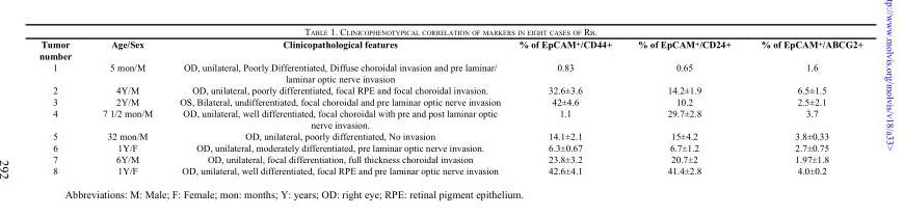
<table><thead><tr><td>Tumor number</td><td>Age/Sex</td><td>Clinicopathological features</td><td>% of EpCAM<sup>+</sup>/CD44+</td><td>% of EpCAM<sup>+</sup>/CD24+</td><td>% of EpCAM<sup>+</sup>/ABCG2+</td></tr></thead><tbody><tr><td>1</td><td>5 mon/M</td><td>OD, unilateral, Poorly Differentiated, Diffuse choroidal invasion and pre laminar/ laminar optic nerve invasion</td><td>0.83</td><td>0.65</td><td>1.6</td></tr><tr><td>2</td><td>4Y/M</td><td>OD, unilateral, poorly differentiated, focal RPE and focal choroidal invasion.</td><td>32.6±3.6</td><td>14.2±1.9</td><td>6.5±1.5</td></tr><tr><td>3</td><td>2Y/M</td><td>OS, Bilateral, undifferentiated, focal choroidal and pre laminar optic nerve invasion</td><td>42±4.6</td><td>10.2</td><td>2.5±2.1</td></tr><tr><td>4</td><td>7 1/2 mon/M</td><td>OD, unilateral, well differentiated, focal choroidal with pre and post laminar optic nerve invasion.</td><td>1.1</td><td>29.7±2.8</td><td>3.7</td></tr><tr><td>5</td><td>32 mon/M</td><td>OD, unilateral, poorly differentiated, No invasion</td><td>14.1±2.1</td><td>15±4.2</td><td>3.8±0.33</td></tr><tr><td>6</td><td>1Y/F</td><td>OD, unilateral, moderately differentiated, pre laminar optic nerve invasion.</td><td>6.3±0.67</td><td>6.7±1.2</td><td>2.7±0.75</td></tr><tr><td>7</td><td>6Y/M</td><td>OD, unilateral, focal differentiation, full thickness choroidal invasion</td><td>23.8±3.2</td><td>20.7±2</td><td>1.97±1.8</td></tr><tr><td>8</td><td>1Y/F</td><td>OD, unilateral, well differentiated, focal RPE and pre laminar optic nerve invasion</td><td>42.6±4.1</td><td>41.4±2.8</td><td>4.0±0.2</td></tr></tbody></table>